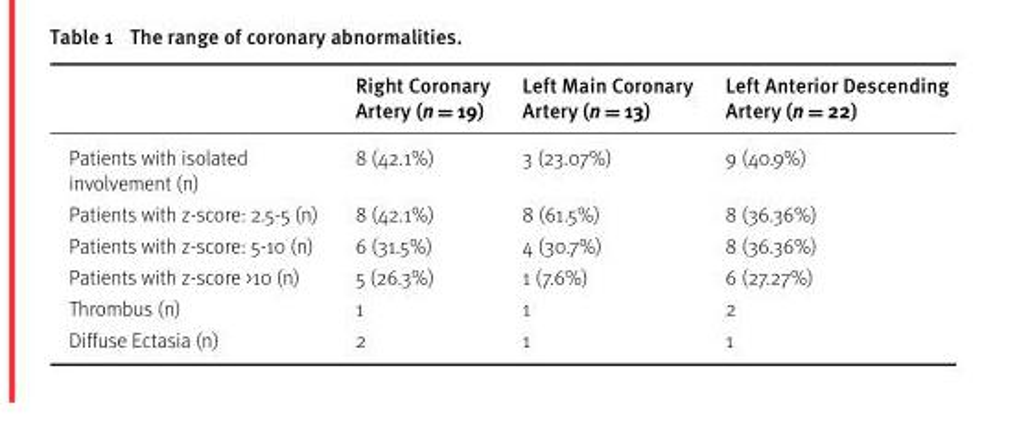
<table><thead><tr><td></td><td>Right Coronary Artery (n = 19)</td><td>Left Main Coronary Artery (n = 13)</td><td>Left Anterior Descending Artery (n = 22)</td></tr></thead><tbody><tr><td>Patients with isolated involvement (n)</td><td>8 (42.1%)</td><td>3 (23.07%)</td><td>9 (40.9%)</td></tr><tr><td>Patients with z-score: 2.5-5 (n)</td><td>8 (42.1%)</td><td>8 (61.5%)</td><td>8 (36.36%)</td></tr><tr><td>Patients with z-score: 5-10 (n)</td><td>6 (31.5%)</td><td>4 (30.7%)</td><td>8 (36.36%)</td></tr><tr><td>Patients with z-score &gt;10 (n)</td><td>5 (26.3%)</td><td>1 (7.6%)</td><td>6 (27.27%)</td></tr><tr><td>Thrombus (n)</td><td>1</td><td>1</td><td>2</td></tr><tr><td>Diffuse Ectasia (n)</td><td>2</td><td>1</td><td>1</td></tr></tbody></table>